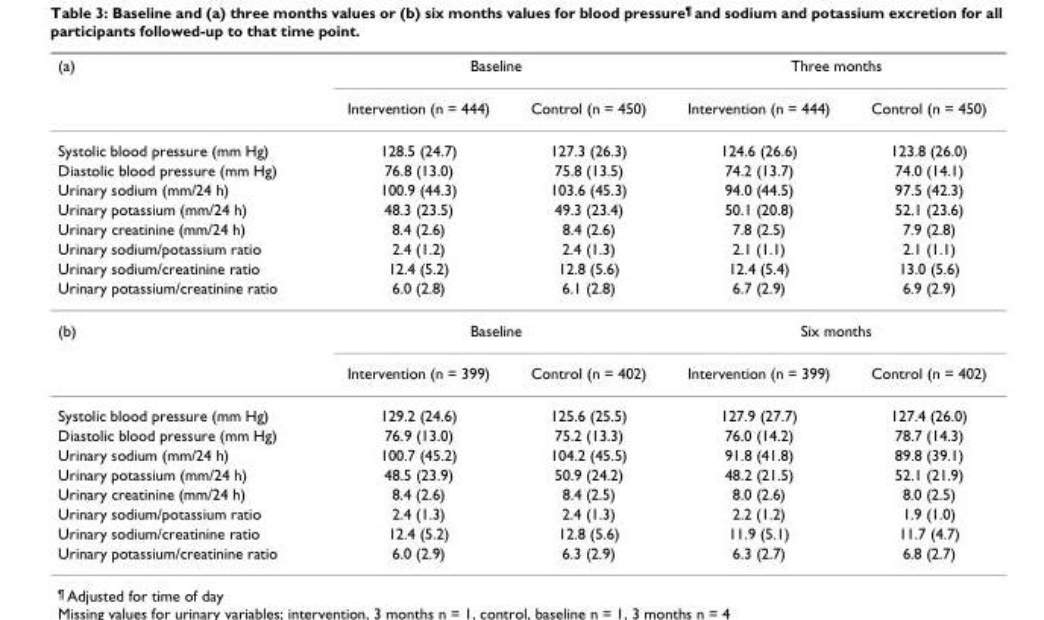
<table><thead><tr><td rowspan="2">(a)</td><td colspan="2">Baseline</td><td colspan="2">Three months</td></tr><tr><td>Intervention (n = 444)</td><td>Control (n = 450)</td><td>Intervention (n = 444)</td><td>Control (n = 450)</td></tr></thead><tbody><tr><td>Systolic blood pressure (mm Hg)</td><td>128.5 (24.7)</td><td>127.3 (26.3)</td><td>124.6 (26.6)</td><td>123.8 (26.0)</td></tr><tr><td>Diastolic blood pressure (mm Hg)</td><td>76.8 (13.0)</td><td>75.8 (13.5)</td><td>74.2 (13.7)</td><td>74.0 (14.1)</td></tr><tr><td>Urinary sodium (mm/24 h)</td><td>100.9 (44.3)</td><td>103.6 (45.3)</td><td>94.0 (44.5)</td><td>97.5 (42.3)</td></tr><tr><td>Urinary potassium (mm/24 h)</td><td>48.3 (23.5)</td><td>49.3 (23.4)</td><td>50.1 (20.8)</td><td>52.1 (23.6)</td></tr><tr><td>Urinary creatinine (mm/24 h)</td><td>8.4 (2.6)</td><td>8.4 (2.6)</td><td>7.8 (2.5)</td><td>7.9 (2.8)</td></tr><tr><td>Urinary sodium/potassium ratio</td><td>2.4 (1.2)</td><td>2.4 (1.3)</td><td>2.1 (1.1)</td><td>2.1 (1.1)</td></tr><tr><td>Urinary sodium/creatinine ratio</td><td>12.4 (5.2)</td><td>12.8 (5.6)</td><td>12.4 (5.4)</td><td>13.0 (5.6)</td></tr><tr><td>Urinary potassium/creatinine ratio</td><td>6.0 (2.8)</td><td>6.1 (2.8)</td><td>6.7 (2.9)</td><td>6.9 (2.9)</td></tr><tr><td rowspan="2">(b)</td><td colspan="2">Baseline</td><td colspan="2">Six months</td></tr><tr><td>Intervention (n = 399)</td><td>Control (n = 402)</td><td>Intervention (n = 399)</td><td>Control (n = 402)</td></tr><tr><td>Systolic blood pressure (mm Hg)</td><td>129.2 (24.6)</td><td>125.6 (25.5)</td><td>127.9 (27.7)</td><td>127.4 (26.0)</td></tr><tr><td>Diastolic blood pressure (mm Hg)</td><td>76.9 (13.0)</td><td>75.2 (13.3)</td><td>76.0 (14.2)</td><td>78.7 (14.3)</td></tr><tr><td>Urinary sodium (mm/24 h)</td><td>100.7 (45.2)</td><td>104.2 (45.5)</td><td>91.8 (41.8)</td><td>89.8 (39.1)</td></tr><tr><td>Urinary potassium (mm/24 h)</td><td>48.5 (23.9)</td><td>50.9 (24.2)</td><td>48.2 (21.5)</td><td>52.1 (21.9)</td></tr><tr><td>Urinary creatinine (mm/24 h)</td><td>8.4 (2.6)</td><td>8.4 (2.5)</td><td>8.0 (2.6)</td><td>8.0 (2.5)</td></tr><tr><td>Urinary sodium/potassium ratio</td><td>2.4 (1.3)</td><td>2.4 (1.3)</td><td>2.2 (1.2)</td><td>1.9 (1.0)</td></tr><tr><td>Urinary sodium/creatinine ratio</td><td>12.4 (5.2)</td><td>12.8 (5.6)</td><td>11.9 (5.1)</td><td>11.7 (4.7)</td></tr><tr><td>Urinary potassium/creatinine ratio</td><td>6.0 (2.9)</td><td>6.3 (2.9)</td><td>6.3 (2.7)</td><td>6.8 (2.7)</td></tr></tbody></table>